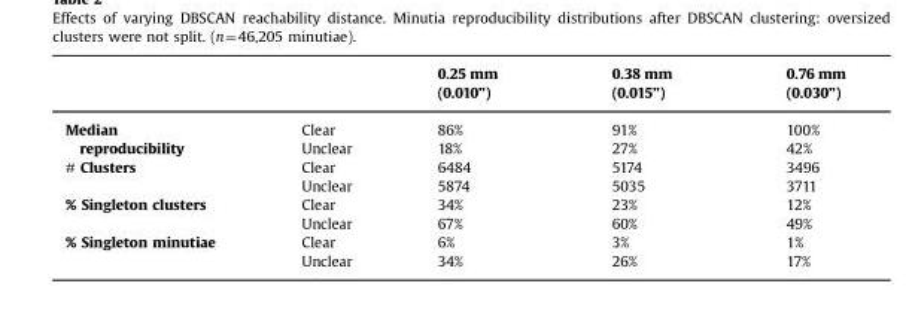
<table><thead><tr><td></td><td></td><td>0.25 mm (0.010”)</td><td>0.38 mm (0.015”)</td><td>0.76 mm (0.030”)</td></tr></thead><tbody><tr><td rowspan="2">Median reproducibility</td><td>Clear</td><td>86%</td><td>91%</td><td>100%</td></tr><tr><td>Unclear</td><td>18%</td><td>27%</td><td>42%</td></tr><tr><td rowspan="2"># Clusters</td><td>Clear</td><td>6484</td><td>5174</td><td>3496</td></tr><tr><td>Unclear</td><td>5874</td><td>5035</td><td>3711</td></tr><tr><td rowspan="2">% Singleton clusters</td><td>Clear</td><td>34%</td><td>23%</td><td>12%</td></tr><tr><td>Unclear</td><td>67%</td><td>60%</td><td>49%</td></tr><tr><td rowspan="2">% Singleton minutiae</td><td>Clear</td><td>6%</td><td>3%</td><td>1%</td></tr><tr><td>Unclear</td><td>34%</td><td>26%</td><td>17%</td></tr></tbody></table>